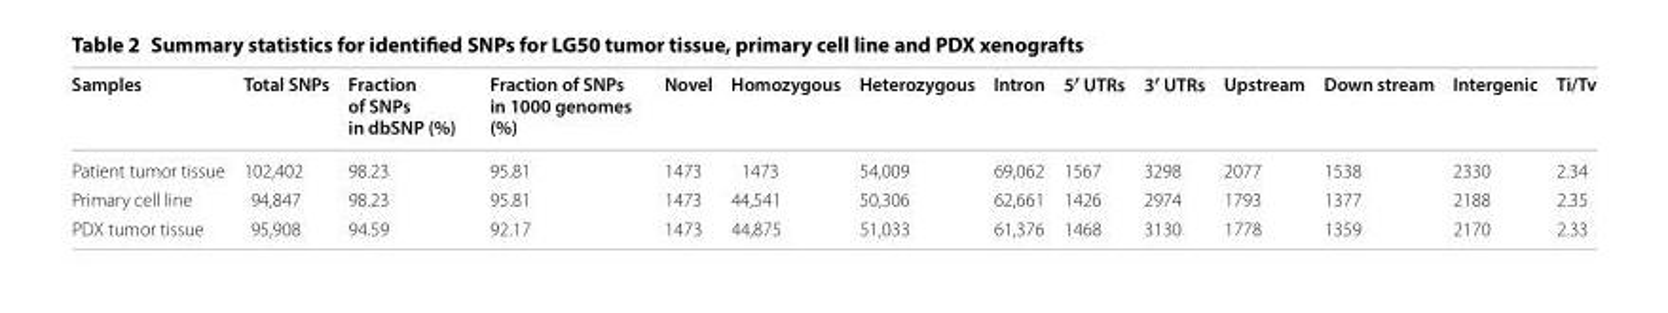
<table><thead><tr><td>Samples</td><td>Total SNPs</td><td>Fraction of SNPs in dbSNP (%)</td><td>Fraction of SNPs in 1000 genomes (%)</td><td>Novel</td><td>Homozygous</td><td>Heterozygous</td><td>Intron</td><td>5′ UTRs</td><td>3′ UTRs</td><td>Upstream</td><td>Down stream</td><td>Intergenic</td><td>Ti/Tv</td></tr></thead><tbody><tr><td>Patient tumor tissue</td><td>102,402</td><td>98.23</td><td>95.81</td><td>1473</td><td>1473</td><td>54,009</td><td>69,062</td><td>1567</td><td>3298</td><td>2077</td><td>1538</td><td>2330</td><td>2.34</td></tr><tr><td>Primary cell line</td><td>94,847</td><td>98.23</td><td>95.81</td><td>1473</td><td>44,541</td><td>50,306</td><td>62,661</td><td>1426</td><td>2974</td><td>1793</td><td>1377</td><td>2188</td><td>2.35</td></tr><tr><td>PDX tumor tissue</td><td>95,908</td><td>94.59</td><td>92.17</td><td>1473</td><td>44,875</td><td>51,033</td><td>61,376</td><td>1468</td><td>3130</td><td>1778</td><td>1359</td><td>2170</td><td>2.33</td></tr></tbody></table>